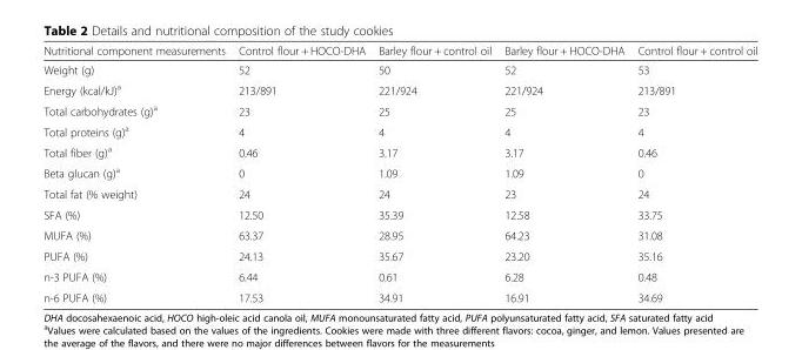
<table><thead><tr><td>Nutritional component measurements</td><td>Control flour + HOCO-DHA</td><td>Barley flour + control oil</td><td>Barley flour + HOCO-DHA</td><td>Control flour + control oil</td></tr></thead><tbody><tr><td>Weight (g)</td><td>52</td><td>50</td><td>52</td><td>53</td></tr><tr><td>Energy (kcal/kJ)<sup>a</sup></td><td>213/891</td><td>221/924</td><td>221/924</td><td>213/891</td></tr><tr><td>Total carbohydrates (g)<sup>a</sup></td><td>23</td><td>25</td><td>25</td><td>23</td></tr><tr><td>Total proteins (g)<sup>a</sup></td><td>4</td><td>4</td><td>4</td><td>4</td></tr><tr><td>Total fiber (g)<sup>a</sup></td><td>0.46</td><td>3.17</td><td>3.17</td><td>0.46</td></tr><tr><td>Beta glucan (g)<sup>a</sup></td><td>0</td><td>1.09</td><td>1.09</td><td>0</td></tr><tr><td>Total fat (% weight)</td><td>24</td><td>24</td><td>23</td><td>24</td></tr><tr><td>SFA (%)</td><td>12.50</td><td>35.39</td><td>12.58</td><td>33.75</td></tr><tr><td>MUFA (%)</td><td>63.37</td><td>28.95</td><td>64.23</td><td>31.08</td></tr><tr><td>PUFA (%)</td><td>24.13</td><td>35.67</td><td>23.20</td><td>35.16</td></tr><tr><td>n-3 PUFA (%)</td><td>6.44</td><td>0.61</td><td>6.28</td><td>0.48</td></tr><tr><td>n-6 PUFA (%)</td><td>17.53</td><td>34.91</td><td>16.91</td><td>34.69</td></tr></tbody></table>